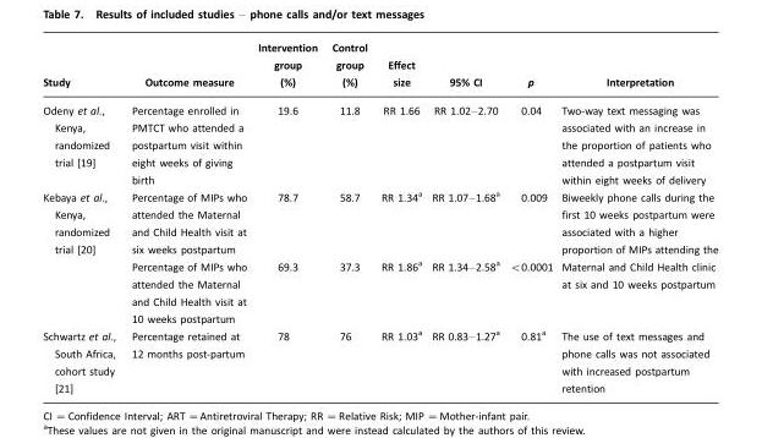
<table><thead><tr><td>Study</td><td>Outcome measure</td><td>Intervention group (%)</td><td>Control group (%)</td><td>Effect size</td><td>95% CI</td><td>p</td><td>Interpretation</td></tr></thead><tbody><tr><td>Odeny et al., Kenya, randomized trial [19]</td><td>Percentage enrolled in PMTCT who attended a postpartum visit within eight weeks of giving birth</td><td>19.6</td><td>11.8</td><td>RR 1.66</td><td>RR 1.02–2.70</td><td>0.04</td><td>Two-way text messaging was associated with an increase in the proportion of patients who attended a postpartum visit within eight weeks of delivery</td></tr><tr><td rowspan="2">Kebaya et al., Kenya, randomized trial [20]</td><td>Percentage of MIPs who attended the Maternal and Child Health visit at six weeks postpartum</td><td>78.7</td><td>58.7</td><td>RR 1.34<sup>a</sup></td><td>RR 1.07–1.68<sup>a</sup></td><td>0.009</td><td>Biweekly phone calls during the first 10 weeks postpartum were associated with a higher proportion of MIPs attending the</td></tr><tr><td>Percentage of MIPs who attended the Maternal and Child Health visit at 10 weeks postpartum</td><td>69.3</td><td>37.3</td><td>RR 1.86<sup>a</sup></td><td>RR 1.34–2.58<sup>a</sup></td><td>&lt;0.0001</td><td>Maternal and Child Health clinic at six and 10 weeks postpartum</td></tr><tr><td>Schwartz et al., South Africa, cohort study [21]</td><td>Percentage retained at 12 months post-partum</td><td>78</td><td>76</td><td>RR 1.03<sup>a</sup></td><td>RR 0.83–1.27<sup>a</sup></td><td>0.81<sup>a</sup></td><td>The use of text messages and phone calls was not associated with increased postpartum retention</td></tr></tbody></table>